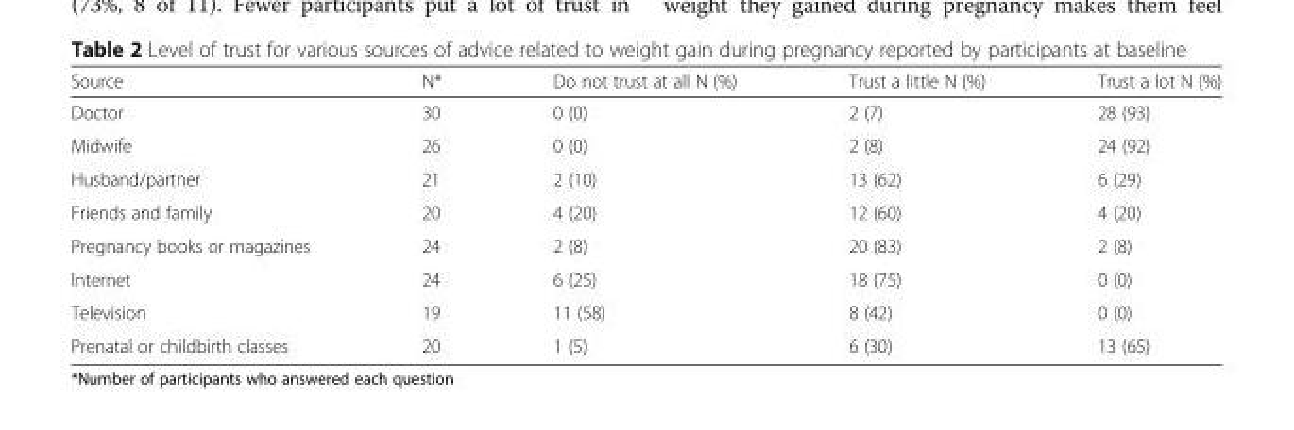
<table><thead><tr><td>Source</td><td>N*</td><td>Do not trust at all N (%)</td><td>Trust a little N (%)</td><td>Trust a lot N (%)</td></tr></thead><tbody><tr><td>Doctor</td><td>30</td><td>0 (0)</td><td>2 (7)</td><td>28 (93)</td></tr><tr><td>Midwife</td><td>26</td><td>0 (0)</td><td>2 (8)</td><td>24 (92)</td></tr><tr><td>Husband/partner</td><td>21</td><td>2 (10)</td><td>13 (62)</td><td>6 (29)</td></tr><tr><td>Friends and family</td><td>20</td><td>4 (20)</td><td>12 (60)</td><td>4 (20)</td></tr><tr><td>Pregnancy books or magazines</td><td>24</td><td>2 (8)</td><td>20 (83)</td><td>2 (8)</td></tr><tr><td>Internet</td><td>24</td><td>6 (25)</td><td>18 (75)</td><td>0 (0)</td></tr><tr><td>Television</td><td>19</td><td>11 (58)</td><td>8 (42)</td><td>0 (0)</td></tr><tr><td>Prenatal or childbirth classes</td><td>20</td><td>1 (5)</td><td>6 (30)</td><td>13 (65)</td></tr></tbody></table>